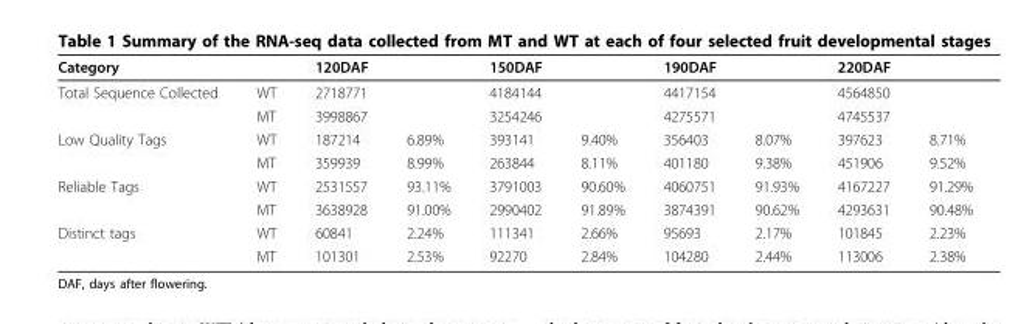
<table><thead><tr><td>Category</td><td></td><td>120DAF</td><td></td><td>150DAF</td><td></td><td>190DAF</td><td></td><td>220DAF</td><td></td></tr></thead><tbody><tr><td rowspan="2">Total Sequence Collected</td><td>WT</td><td>2718771</td><td></td><td>4184144</td><td></td><td>4417154</td><td></td><td>4564850</td><td></td></tr><tr><td>MT</td><td>3998867</td><td></td><td>3254246</td><td></td><td>4275571</td><td></td><td>4745537</td><td></td></tr><tr><td rowspan="2">Low Quality Tags</td><td>WT</td><td>187214</td><td>6.89%</td><td>393141</td><td>9.40%</td><td>356403</td><td>8.07%</td><td>397623</td><td>8.71%</td></tr><tr><td>MT</td><td>359939</td><td>8.99%</td><td>263844</td><td>8.11%</td><td>401180</td><td>9.38%</td><td>451906</td><td>9.52%</td></tr><tr><td rowspan="2">Reliable Tags</td><td>WT</td><td>2531557</td><td>93.11%</td><td>3791003</td><td>90.60%</td><td>4060751</td><td>91.93%</td><td>4167227</td><td>91.29%</td></tr><tr><td>MT</td><td>3638928</td><td>91.00%</td><td>2990402</td><td>91.89%</td><td>3874391</td><td>90.62%</td><td>4293631</td><td>90.48%</td></tr><tr><td rowspan="2">Distinct tags</td><td>WT</td><td>60841</td><td>2.24%</td><td>111341</td><td>2.66%</td><td>95693</td><td>2.17%</td><td>101845</td><td>2.23%</td></tr><tr><td>MT</td><td>101301</td><td>2.53%</td><td>92270</td><td>2.84%</td><td>104280</td><td>2.44%</td><td>113006</td><td>2.38%</td></tr></tbody></table>